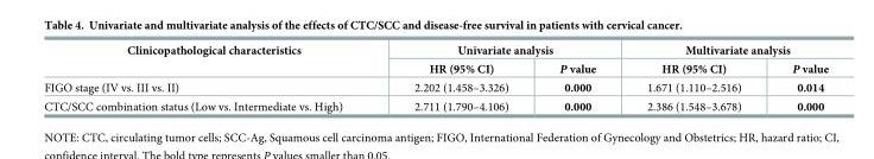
<table><thead><tr><td rowspan="2">Clinicopathological characteristics</td><td colspan="2">Univariate analysis</td><td colspan="2">Multivariate analysis</td></tr><tr><td>HR (95% CI)</td><td>P value</td><td>HR (95% CI)</td><td>P value</td></tr></thead><tbody><tr><td>FIGO stage (IV vs. III vs. II)</td><td>2.202 (1.458–3.326)</td><td>0.000</td><td>1.671 (1.110–2.516)</td><td>0.014</td></tr><tr><td>CTC/SCC combination status (Low vs. Intermediate vs. High)</td><td>2.711 (1.790–4.106)</td><td>0.000</td><td>2.386 (1.548–3.678)</td><td>0.000</td></tr></tbody></table>